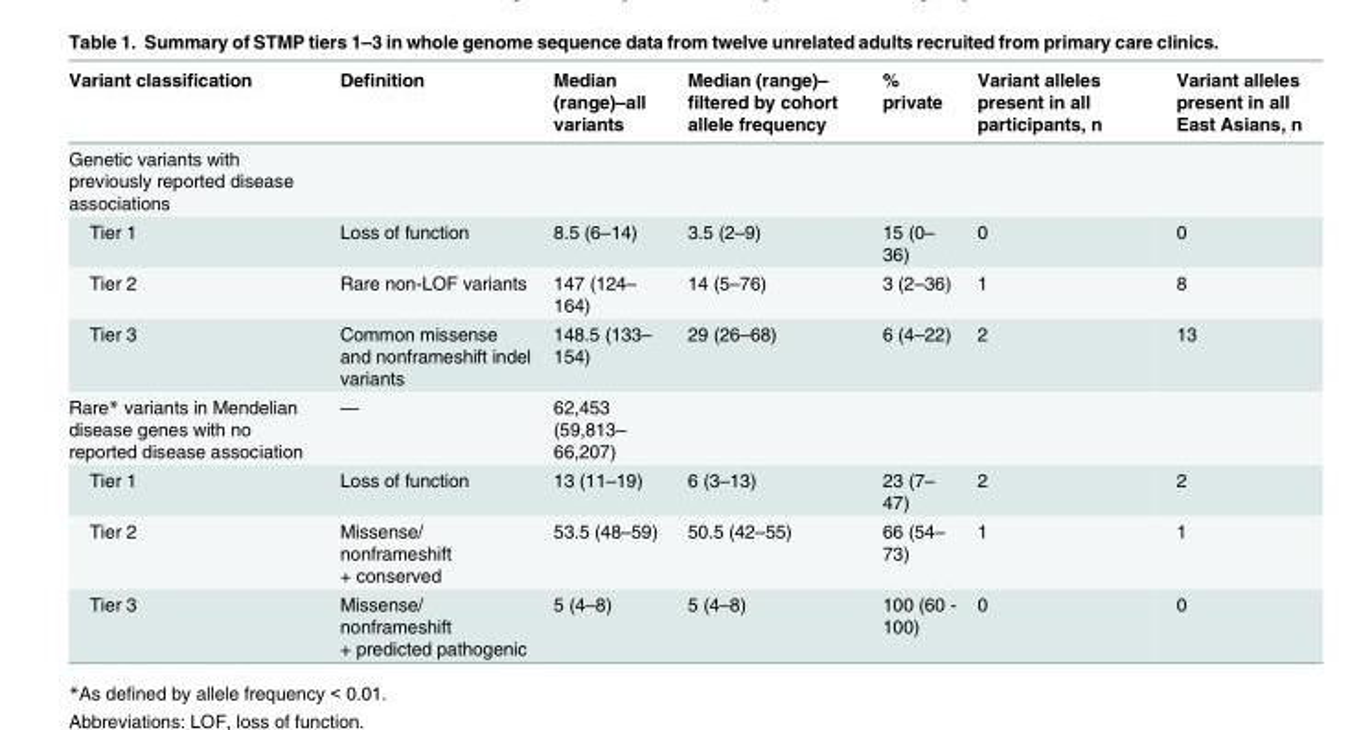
<table><thead><tr><td>Variant classification</td><td>Definition</td><td>Median (range)–all variants</td><td>Median (range)– filtered by cohort allele frequency</td><td>% private</td><td>Variant alleles present in all participants, n</td><td>Variant alleles present in all East Asians, n</td></tr></thead><tbody><tr><td colspan="7">Genetic variants with previously reported disease associations</td></tr><tr><td>Tier 1</td><td>Loss of function</td><td>8.5 (6–14)</td><td>3.5 (2–9)</td><td>15 (0– 36)</td><td>0</td><td>0</td></tr><tr><td>Tier 2</td><td>Rare non-LOF variants</td><td>147 (124– 164)</td><td>14 (5–76)</td><td>3 (2–36)</td><td>1</td><td>8</td></tr><tr><td>Tier 3</td><td>Common missense and nonframeshift indel variants</td><td>148.5 (133– 154)</td><td>29 (26–68)</td><td>6 (4–22)</td><td>2</td><td>13</td></tr><tr><td>Rare* variants in Mendelian disease genes with no reported disease association</td><td>—</td><td>62,453 (59,813– 66,207)</td><td></td><td></td><td></td><td></td></tr><tr><td>Tier 1</td><td>Loss of function</td><td>13 (11–19)</td><td>6 (3–13)</td><td>23 (7– 47)</td><td>2</td><td>2</td></tr><tr><td>Tier 2</td><td>Missense/ nonframeshift + conserved</td><td>53.5 (48–59)</td><td>50.5 (42–55)</td><td>66 (54– 73)</td><td>1</td><td>1</td></tr><tr><td>Tier 3</td><td>Missense/ nonframeshift + predicted pathogenic</td><td>5 (4–8)</td><td>5 (4–8)</td><td>100 (60 - 100)</td><td>0</td><td>0</td></tr></tbody></table>